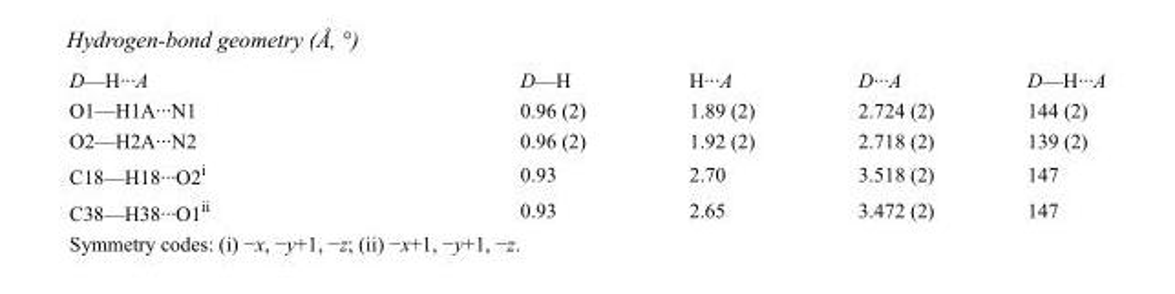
<table><tbody><tr><td>D—H···A</td><td>D—H</td><td>H···A</td><td>D···A</td><td>D—H···A</td></tr><tr><td>O1—H1A···N1</td><td>0.96 (2)</td><td>1.89 (2)</td><td>2.724 (2)</td><td>144 (2)</td></tr><tr><td>O2—H2A···N2</td><td>0.96 (2)</td><td>1.92 (2)</td><td>2.718 (2)</td><td>139 (2)</td></tr><tr><td>C18—H18···O2<sup>i</sup></td><td>0.93</td><td>2.70</td><td>3.518 (2)</td><td>147</td></tr><tr><td>C38—H38···O1<sup>ii</sup></td><td>0.93</td><td>2.65</td><td>3.472 (2)</td><td>147</td></tr></tbody></table>